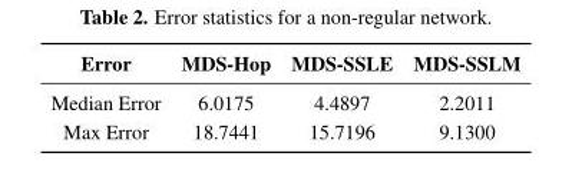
<table><thead><tr><td>Error</td><td>MDS-Hop</td><td>MDS-SSLE</td><td>MDS-SSLM</td></tr></thead><tbody><tr><td>Median Error</td><td>6.0175</td><td>4.4897</td><td>2.2011</td></tr><tr><td>Max Error</td><td>18.7441</td><td>15.7196</td><td>9.1300</td></tr></tbody></table>